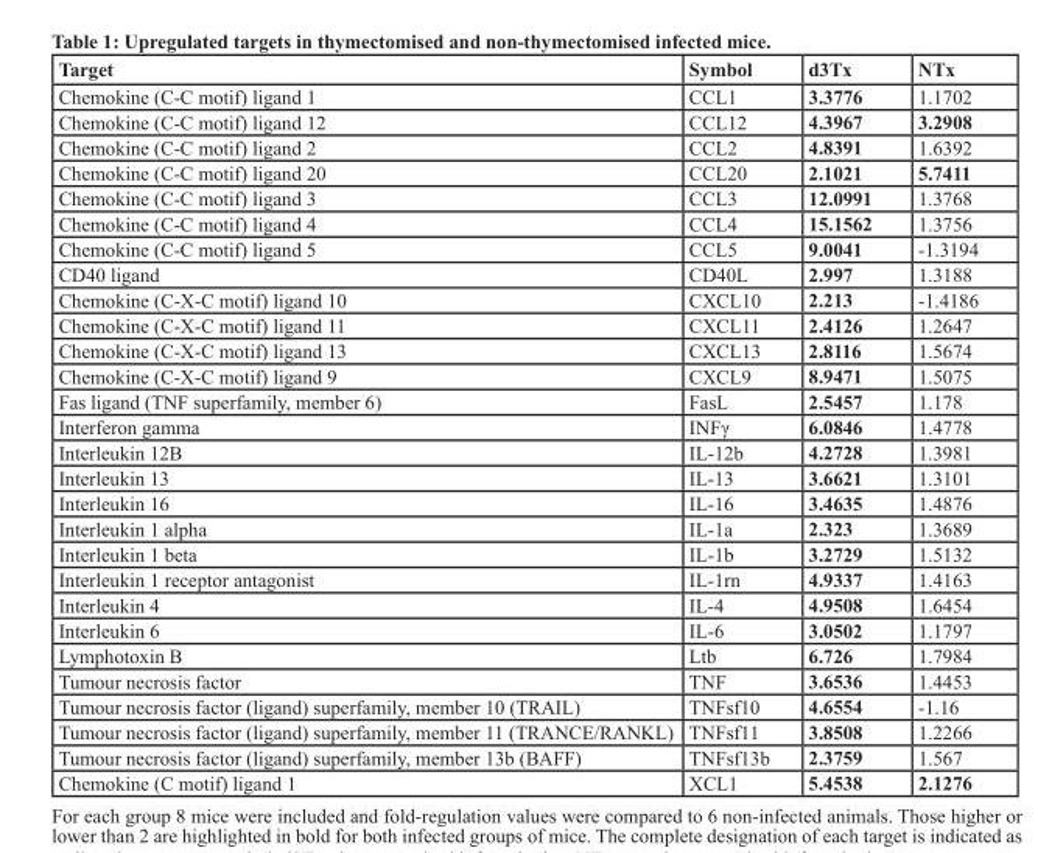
<table><thead><tr><td>Target</td><td>Symbol</td><td>d3Tx</td><td>NTx</td></tr></thead><tbody><tr><td>Chemokine (C-C motif) ligand 1</td><td>CCL1</td><td>3.3776</td><td>1.1702</td></tr><tr><td>Chemokine (C-C motif) ligand 12</td><td>CCL12</td><td>4.3967</td><td>3.2908</td></tr><tr><td>Chemokine (C-C motif) ligand 2</td><td>CCL2</td><td>4.8391</td><td>1.6392</td></tr><tr><td>Chemokine (C-C motif) ligand 20</td><td>CCL20</td><td>2.1021</td><td>5.7411</td></tr><tr><td>Chemokine (C-C motif) ligand 3</td><td>CCL3</td><td>12.0991</td><td>1.3768</td></tr><tr><td>Chemokine (C-C motif) ligand 4</td><td>CCL4</td><td>15.1562</td><td>1.3756</td></tr><tr><td>Chemokine (C-C motif) ligand 5</td><td>CCL5</td><td>9.0041</td><td>-1.3194</td></tr><tr><td>CD40 ligand</td><td>CD40L</td><td>2.997</td><td>1.3188</td></tr><tr><td>Chemokine (C-X-C motif) ligand 10</td><td>CXCL10</td><td>2.213</td><td>-1.4186</td></tr><tr><td>Chemokine (C-X-C motif) ligand 11</td><td>CXCL11</td><td>2.4126</td><td>1.2647</td></tr><tr><td>Chemokine (C-X-C motif) ligand 13</td><td>CXCL13</td><td>2.8116</td><td>1.5674</td></tr><tr><td>Chemokine (C-X-C motif) ligand 9</td><td>CXCL9</td><td>8.9471</td><td>1.5075</td></tr><tr><td>Fas ligand (TNF superfamily, member 6)</td><td>FasL</td><td>2.5457</td><td>1.178</td></tr><tr><td>Interferon gamma</td><td>INFγ</td><td>6.0846</td><td>1.4778</td></tr><tr><td>Interleukin 12B</td><td>IL-12b</td><td>4.2728</td><td>1.3981</td></tr><tr><td>Interleukin 13</td><td>IL-13</td><td>3.6621</td><td>1.3101</td></tr><tr><td>Interleukin 16</td><td>IL-16</td><td>3.4635</td><td>1.4876</td></tr><tr><td>Interleukin 1 alpha</td><td>IL-1a</td><td>2.323</td><td>1.3689</td></tr><tr><td>Interleukin 1 beta</td><td>IL-1b</td><td>3.2729</td><td>1.5132</td></tr><tr><td>Interleukin 1 receptor antagonist</td><td>IL-1rn</td><td>4.9337</td><td>1.4163</td></tr><tr><td>Interleukin 4</td><td>IL-4</td><td>4.9508</td><td>1.6454</td></tr><tr><td>Interleukin 6</td><td>IL-6</td><td>3.0502</td><td>1.1797</td></tr><tr><td>Lymphotoxin B</td><td>Ltb</td><td>6.726</td><td>1.7984</td></tr><tr><td>Tumour necrosis factor</td><td>TNF</td><td>3.6536</td><td>1.4453</td></tr><tr><td>Tumour necrosis factor (ligand) superfamily, member 10 (TRAIL)</td><td>TNFsf10</td><td>4.6554</td><td>-1.16</td></tr><tr><td>Tumour necrosis factor (ligand) superfamily, member 11 (TRANCE/RANKL)</td><td>TNFsf11</td><td>3.8508</td><td>1.2266</td></tr><tr><td>Tumour necrosis factor (ligand) superfamily, member 13b (BAFF)</td><td>TNFsf13b</td><td>2.3759</td><td>1.567</td></tr><tr><td>Chemokine (C motif) ligand 1</td><td>XCL1</td><td>5.4538</td><td>2.1276</td></tr></tbody></table>